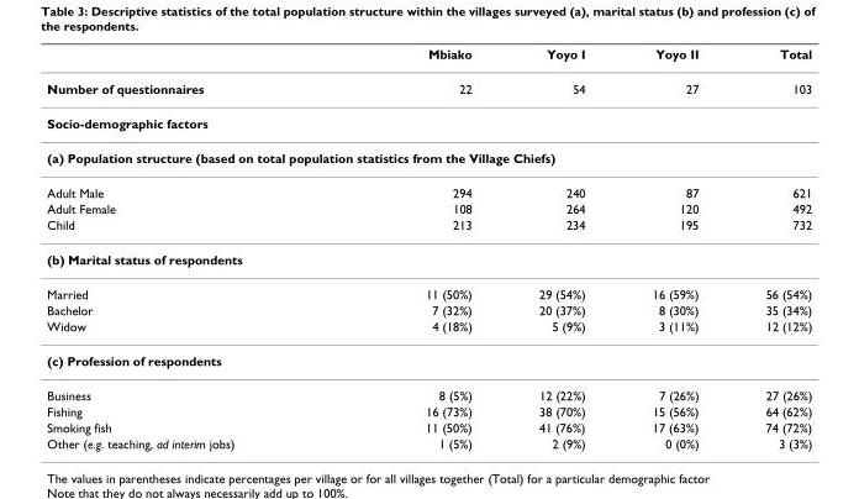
<table><thead><tr><td></td><td>Mbiako</td><td>Yoyo I</td><td>Yoyo II</td><td>Total</td></tr></thead><tbody><tr><td>Number of questionnaires</td><td>22</td><td>54</td><td>27</td><td>103</td></tr><tr><td colspan="5">Socio-demographic factors</td></tr><tr><td colspan="5">(a) Population structure (based on total population statistics from the Village Chiefs)</td></tr><tr><td>Adult Male</td><td>294</td><td>240</td><td>87</td><td>621</td></tr><tr><td>Adult Female</td><td>108</td><td>264</td><td>120</td><td>492</td></tr><tr><td>Child</td><td>213</td><td>234</td><td>195</td><td>732</td></tr><tr><td colspan="5">(b) Marital status of respondents</td></tr><tr><td>Married</td><td>11 (50%)</td><td>29 (54%)</td><td>16 (59%)</td><td>56 (54%)</td></tr><tr><td>Bachelor</td><td>7 (32%)</td><td>20 (37%)</td><td>8 (30%)</td><td>35 (34%)</td></tr><tr><td>Widow</td><td>4 (18%)</td><td>5 (9%)</td><td>3 (11%)</td><td>12 (12%)</td></tr><tr><td colspan="5">(c) Profession of respondents</td></tr><tr><td>Business</td><td>8 (5%)</td><td>12 (22%)</td><td>7 (26%)</td><td>27 (26%)</td></tr><tr><td>Fishing</td><td>16 (73%)</td><td>38 (70%)</td><td>15 (56%)</td><td>64 (62%)</td></tr><tr><td>Smoking fish</td><td>11 (50%)</td><td>41 (76%)</td><td>17 (63%)</td><td>74 (72%)</td></tr><tr><td>Other (e.g. teaching, ad interim jobs)</td><td>1 (5%)</td><td>2 (9%)</td><td>0 (0%)</td><td>3 (3%)</td></tr></tbody></table>